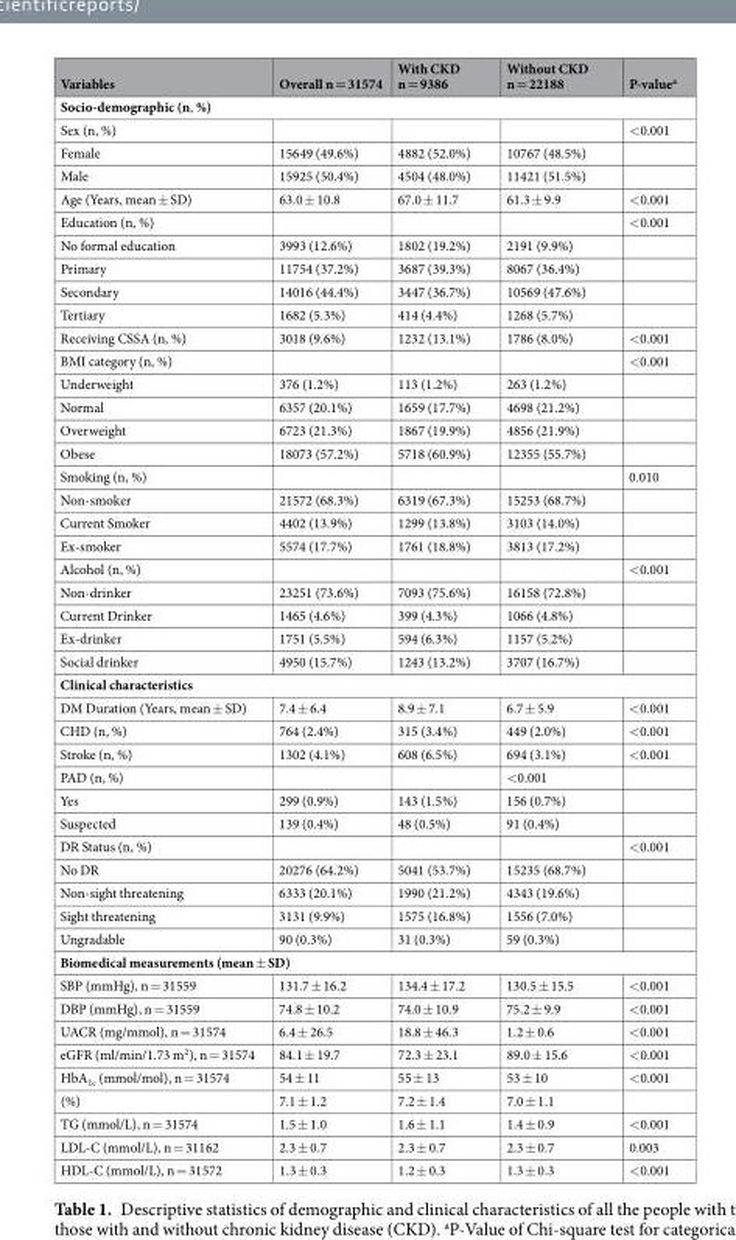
<table><thead><tr><td>Variables</td><td>Overall n = 31574</td><td>With CKD n = 9386</td><td>Without CKD n = 22188</td><td>P-value<sup>a</sup></td></tr></thead><tbody><tr><td colspan="5">Socio-demographic (n, %)</td></tr><tr><td>Sex (n, %)</td><td></td><td></td><td></td><td>&lt;0.001</td></tr><tr><td>Female</td><td>15649 (49.6%)</td><td>4882 (52.0%)</td><td>10767 (48.5%)</td><td></td></tr><tr><td>Male</td><td>15925 (50.4%)</td><td>4504 (48.0%)</td><td>11421 (51.5%)</td><td></td></tr><tr><td>Age (Years, mean ± SD)</td><td>63.0 ± 10.8</td><td>67.0 ± 11.7</td><td>61.3 ± 9.9</td><td>&lt;0.001</td></tr><tr><td>Education (n, %)</td><td></td><td></td><td></td><td>&lt;0.001</td></tr><tr><td>No formal education</td><td>3993 (12.6%)</td><td>1802 (19.2%)</td><td>2191 (9.9%)</td><td></td></tr><tr><td>Primary</td><td>11754 (37.2%)</td><td>3687 (39.3%)</td><td>8067 (36.4%)</td><td></td></tr><tr><td>Secondary</td><td>14016 (44.4%)</td><td>3447 (36.7%)</td><td>10569 (47.6%)</td><td></td></tr><tr><td>Tertiary</td><td>1682 (5.3%)</td><td>414 (4.4%)</td><td>1268 (5.7%)</td><td></td></tr><tr><td>Receiving CSSA (n, %)</td><td>3018 (9.6%)</td><td>1232 (13.1%)</td><td>1786 (8.0%)</td><td>&lt;0.001</td></tr><tr><td>BMI category (n, %)</td><td></td><td></td><td></td><td>&lt;0.001</td></tr><tr><td>Underweight</td><td>376 (1.2%)</td><td>113 (1.2%)</td><td>263 (1.2%)</td><td></td></tr><tr><td>Normal</td><td>6357 (20.1%)</td><td>1659 (17.7%)</td><td>4698 (21.2%)</td><td></td></tr><tr><td>Overweight</td><td>6723 (21.3%)</td><td>1867 (19.9%)</td><td>4856 (21.9%)</td><td></td></tr><tr><td>Obese</td><td>18073 (57.2%)</td><td>5718 (60.9%)</td><td>12355 (55.7%)</td><td></td></tr><tr><td>Smoking (n, %)</td><td></td><td></td><td></td><td>0.010</td></tr><tr><td>Non-smoker</td><td>21572 (68.3%)</td><td>6319 (67.3%)</td><td>15253 (68.7%)</td><td></td></tr><tr><td>Current Smoker</td><td>4402 (13.9%)</td><td>1299 (13.8%)</td><td>3103 (14.0%)</td><td></td></tr><tr><td>Ex-smoker</td><td>5574 (17.7%)</td><td>1761 (18.8%)</td><td>3813 (17.2%)</td><td></td></tr><tr><td>Alcohol (n, %)</td><td></td><td></td><td></td><td>&lt;0.001</td></tr><tr><td>Non-drinker</td><td>23251 (73.6%)</td><td>7093 (75.6%)</td><td>16158 (72.8%)</td><td></td></tr><tr><td>Current Drinker</td><td>1465 (4.6%)</td><td>399 (4.3%)</td><td>1066 (4.8%)</td><td></td></tr><tr><td>Ex-drinker</td><td>1751 (5.5%)</td><td>594 (6.3%)</td><td>1157 (5.2%)</td><td></td></tr><tr><td>Social drinker</td><td>4950 (15.7%)</td><td>1243 (13.2%)</td><td>3707 (16.7%)</td><td></td></tr><tr><td colspan="5">Clinical characteristics</td></tr><tr><td>DM Duration (Years, mean ± SD)</td><td>7.4 ± 6.4</td><td>8.9 ± 7.1</td><td>6.7 ± 5.9</td><td>&lt;0.001</td></tr><tr><td>CHD (n, %)</td><td>764 (2.4%)</td><td>315 (3.4%)</td><td>449 (2.0%)</td><td>&lt;0.001</td></tr><tr><td>Stroke (n, %)</td><td>1302 (4.1%)</td><td>608 (6.5%)</td><td>694 (3.1%)</td><td>&lt;0.001</td></tr><tr><td>PAD (n, %)</td><td></td><td></td><td>&lt;0.001</td><td></td></tr><tr><td>Yes</td><td>299 (0.9%)</td><td>143 (1.5%)</td><td>156 (0.7%)</td><td></td></tr><tr><td>Suspected</td><td>139 (0.4%)</td><td>48 (0.5%)</td><td>91 (0.4%)</td><td></td></tr><tr><td>DR Status (n, %)</td><td></td><td></td><td></td><td>&lt;0.001</td></tr><tr><td>No DR</td><td>20276 (64.2%)</td><td>5041 (53.7%)</td><td>15235 (68.7%)</td><td></td></tr><tr><td>Non-sight threatening</td><td>6333 (20.1%)</td><td>1990 (21.2%)</td><td>4343 (19.6%)</td><td></td></tr><tr><td>Sight threatening</td><td>3131 (9.9%)</td><td>1575 (16.8%)</td><td>1556 (7.0%)</td><td></td></tr><tr><td>Ungradable</td><td>90 (0.3%)</td><td>31 (0.3%)</td><td>59 (0.3%)</td><td></td></tr><tr><td colspan="5">Biomedical measurements (mean ± SD)</td></tr><tr><td>SBP (mmHg), n = 31559</td><td>131.7 ± 16.2</td><td>134.4 ± 17.2</td><td>130.5 ± 15.5</td><td>&lt;0.001</td></tr><tr><td>DBP (mmHg), n = 31559</td><td>74.8 ± 10.2</td><td>74.0 ± 10.9</td><td>75.2 ± 9.9</td><td>&lt;0.001</td></tr><tr><td>UACR (mg/mmol), n = 31574</td><td>6.4 ± 26.5</td><td>18.8 ± 46.3</td><td>1.2 ± 0.6</td><td>&lt;0.001</td></tr><tr><td>eGFR (ml/min/1.73 m<sup>2</sup>), n = 31574</td><td>84.1 ± 19.7</td><td>72.3 ± 23.1</td><td>89.0 ± 15.6</td><td>&lt;0.001</td></tr><tr><td>HbA<sub>1c</sub> (mmol/mol), n = 31574</td><td>54 ± 11</td><td>55 ± 13</td><td>53 ± 10</td><td>&lt;0.001</td></tr><tr><td>(%)</td><td>7.1 ± 1.2</td><td>7.2 ± 1.4</td><td>7.0 ± 1.1</td><td></td></tr><tr><td>TG (mmol/L), n = 31574</td><td>1.5 ± 1.0</td><td>1.6 ± 1.1</td><td>1.4 ± 0.9</td><td>&lt;0.001</td></tr><tr><td>LDL-C (mmol/L), n = 31162</td><td>2.3 ± 0.7</td><td>2.3 ± 0.7</td><td>2.3 ± 0.7</td><td>0.003</td></tr><tr><td>HDL-C (mmol/L), n = 31572</td><td>1.3 ± 0.3</td><td>1.2 ± 0.3</td><td>1.3 ± 0.3</td><td>&lt;0.001</td></tr></tbody></table>